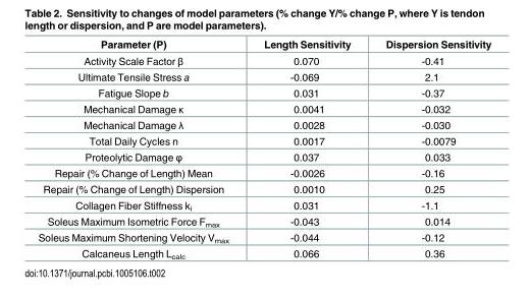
<table><thead><tr><td>Parameter (P)</td><td>Length Sensitivity</td><td>Dispersion Sensitivity</td></tr></thead><tbody><tr><td>Activity Scale Factor β</td><td>0.070</td><td>-0.41</td></tr><tr><td>Ultimate Tensile Stress a</td><td>-0.069</td><td>2.1</td></tr><tr><td>Fatigue Slope b</td><td>0.031</td><td>-0.37</td></tr><tr><td>Mechanical Damage κ</td><td>0.0041</td><td>-0.032</td></tr><tr><td>Mechanical Damage λ</td><td>0.0028</td><td>-0.030</td></tr><tr><td>Total Daily Cycles n</td><td>0.0017</td><td>-0.0079</td></tr><tr><td>Proteolytic Damage φ</td><td>0.037</td><td>0.033</td></tr><tr><td>Repair (% Change of Length) Mean</td><td>-0.0026</td><td>-0.16</td></tr><tr><td>Repair (% Change of Length) Dispersion</td><td>0.0010</td><td>0.25</td></tr><tr><td>Collagen Fiber Stiffness k<sub>i</sub></td><td>0.031</td><td>-1.1</td></tr><tr><td>Soleus Maximum Isometric Force F<sub>max</sub></td><td>-0.043</td><td>0.014</td></tr><tr><td>Soleus Maximum Shortening Velocity V<sub>max</sub></td><td>-0.044</td><td>-0.12</td></tr><tr><td>Calcaneus Length L<sub>calc</sub></td><td>0.066</td><td>0.36</td></tr></tbody></table>